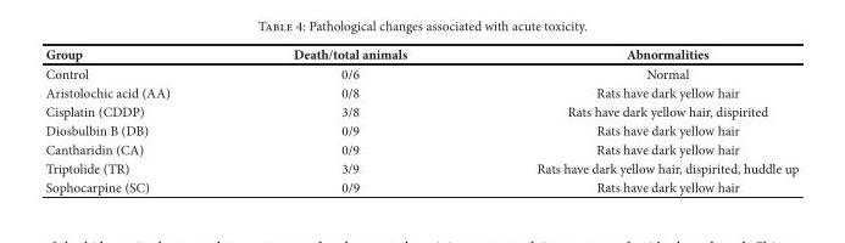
<table><thead><tr><td>Group</td><td>Death/total animals</td><td>Abnormalities</td></tr></thead><tbody><tr><td>Control</td><td>0/6</td><td>Normal</td></tr><tr><td>Aristolochic acid (AA)</td><td>0/8</td><td>Rats have dark yellow hair</td></tr><tr><td>Cisplatin (CDDP)</td><td>3/8</td><td>Rats have dark yellow hair, dispirited</td></tr><tr><td>Diosbulbin B (DB)</td><td>0/9</td><td>Rats have dark yellow hair</td></tr><tr><td>Cantharidin (CA)</td><td>0/9</td><td>Rats have dark yellow hair</td></tr><tr><td>Triptolide (TR)</td><td>3/9</td><td>Rats have dark yellow hair, dispirited, huddle up</td></tr><tr><td>Sophocarpine (SC)</td><td>0/9</td><td>Rats have dark yellow hair</td></tr></tbody></table>